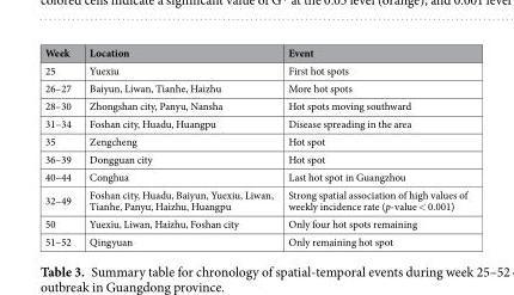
<table><thead><tr><td>Week</td><td>Location</td><td>Event</td></tr></thead><tbody><tr><td>25</td><td>Yuexiu</td><td>First hot spots</td></tr><tr><td>26–27</td><td>Baiyun, Liwan, Tianhe, Haizhu</td><td>More hot spots</td></tr><tr><td>28–30</td><td>Zhongshan city, Panyu, Nansha</td><td>Hot spots moving southward</td></tr><tr><td>31–34</td><td>Foshan city, Huadu, Huangpu</td><td>Disease spreading in the area</td></tr><tr><td>35</td><td>Zengcheng</td><td>Hot spot</td></tr><tr><td>36–39</td><td>Dongguan city</td><td>Hot spot</td></tr><tr><td>40–44</td><td>Conghua</td><td>Last hot spot in Guangzhou</td></tr><tr><td>32–49</td><td>Foshan city, Huadu, Baiyun, Yuexiu, Liwan, Tianhe, Panyu, Haizhu, Huangpu</td><td>Strong spatial association of high values of weekly incidence rate (p-value &lt; 0.001)</td></tr><tr><td>50</td><td>Yuexiu, Liwan, Haizhu, Foshan city</td><td>Only four hot spots remaining</td></tr><tr><td>51–52</td><td>Qingyuan</td><td>Only remaining hot spot</td></tr></tbody></table>